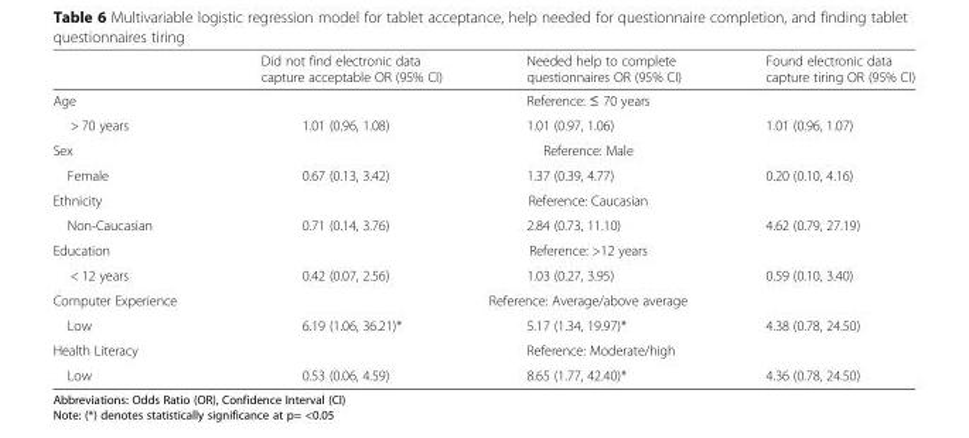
<table><thead><tr><td></td><td>Did not find electronic data capture acceptable OR (95% CI)</td><td>Needed help to complete questionnaires OR (95% CI)</td><td>Found electronic data capture tiring OR (95% CI)</td></tr></thead><tbody><tr><td>Age</td><td colspan="3">Reference: ≤ 70 years</td></tr><tr><td>&gt; 70 years</td><td>1.01 (0.96, 1.08)</td><td>1.01 (0.97, 1.06)</td><td>1.01 (0.96, 1.07)</td></tr><tr><td>Sex</td><td colspan="3">Reference: Male</td></tr><tr><td>Female</td><td>0.67 (0.13, 3.42)</td><td>1.37 (0.39, 4.77)</td><td>0.20 (0.10, 4.16)</td></tr><tr><td>Ethnicity</td><td colspan="3">Reference: Caucasian</td></tr><tr><td>Non-Caucasian</td><td>0.71 (0.14, 3.76)</td><td>2.84 (0.73, 11.10)</td><td>4.62 (0.79, 27.19)</td></tr><tr><td>Education</td><td colspan="3">Reference: &gt;12 years</td></tr><tr><td>&lt; 12 years</td><td>0.42 (0.07, 2.56)</td><td>1.03 (0.27, 3.95)</td><td>0.59 (0.10, 3.40)</td></tr><tr><td>Computer Experience</td><td colspan="3">Reference: Average/above average</td></tr><tr><td>Low</td><td>6.19 (1.06, 36.21)*</td><td>5.17 (1.34, 19.97)*</td><td>4.38 (0.78, 24.50)</td></tr><tr><td>Health Literacy</td><td></td><td>Reference: Moderate/high</td><td></td></tr><tr><td>Low</td><td>0.53 (0.06, 4.59)</td><td>8.65 (1.77, 42.40)*</td><td>4.36 (0.78, 24.50)</td></tr></tbody></table>